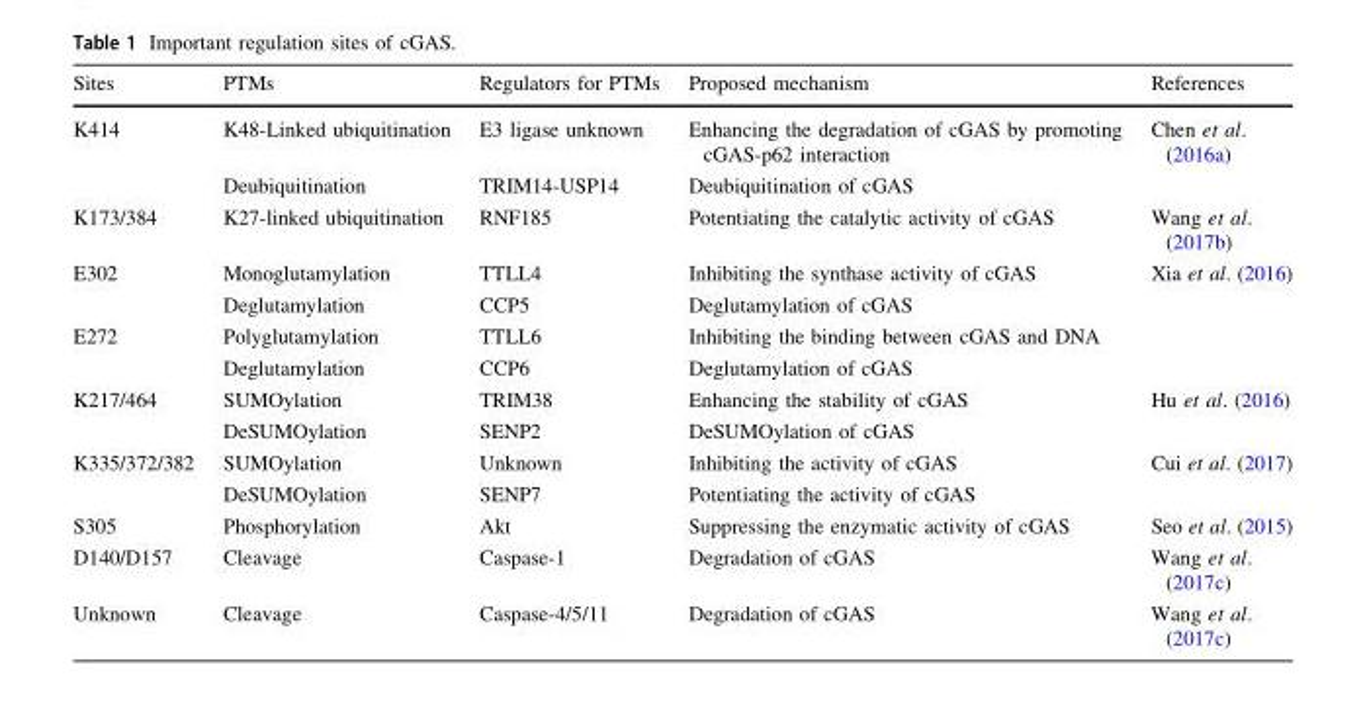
<table><thead><tr><td>Sites</td><td>PTMs</td><td>Regulators for PTMs</td><td>Proposed mechanism</td><td>References</td></tr></thead><tbody><tr><td rowspan="2">K414</td><td>K48-Linked ubiquitination</td><td>E3 ligase unknown</td><td>Enhancing the degradation of cGAS by promoting cGAS-p62 interaction</td><td rowspan="2">Chen et al. (2016a)</td></tr><tr><td>Deubiquitination</td><td>TRIM14-USP14</td><td>Deubiquitination of cGAS</td></tr><tr><td>K173/384</td><td>K27-linked ubiquitination</td><td>RNF185</td><td>Potentiating the catalytic activity of cGAS</td><td>Wang et al. (2017b)</td></tr><tr><td rowspan="2">E302</td><td>Monoglutamylation</td><td>TTLL4</td><td>Inhibiting the synthase activity of cGAS</td><td rowspan="4">Xia et al. (2016)</td></tr><tr><td>Deglutamylation</td><td>CCP5</td><td>Deglutamylation of cGAS</td></tr><tr><td rowspan="2">E272</td><td>Polyglutamylation</td><td>TTLL6</td><td>Inhibiting the binding between cGAS and DNA</td></tr><tr><td>Deglutamylation</td><td>CCP6</td><td>Deglutamylation of cGAS</td></tr><tr><td rowspan="2">K217/464</td><td>SUMOylation</td><td>TRIM38</td><td>Enhancing the stability of cGAS</td><td rowspan="2">Hu et al. (2016)</td></tr><tr><td>DeSUMOylation</td><td>SENP2</td><td>DeSUMOylation of cGAS</td></tr><tr><td rowspan="2">K335/372/382</td><td>SUMOylation</td><td>Unknown</td><td>Inhibiting the activity of cGAS</td><td rowspan="2">Cui et al. (2017)</td></tr><tr><td>DeSUMOylation</td><td>SENP7</td><td>Potentiating the activity of cGAS</td></tr><tr><td>S305</td><td>Phosphorylation</td><td>Akt</td><td>Suppressing the enzymatic activity of cGAS</td><td>Seo et al. (2015)</td></tr><tr><td>D140/D157</td><td>Cleavage</td><td>Caspase-1</td><td>Degradation of cGAS</td><td>Wang et al. (2017c)</td></tr><tr><td>Unknown</td><td>Cleavage</td><td>Caspase-4/5/11</td><td>Degradation of cGAS</td><td>Wang et al. (2017c)</td></tr></tbody></table>